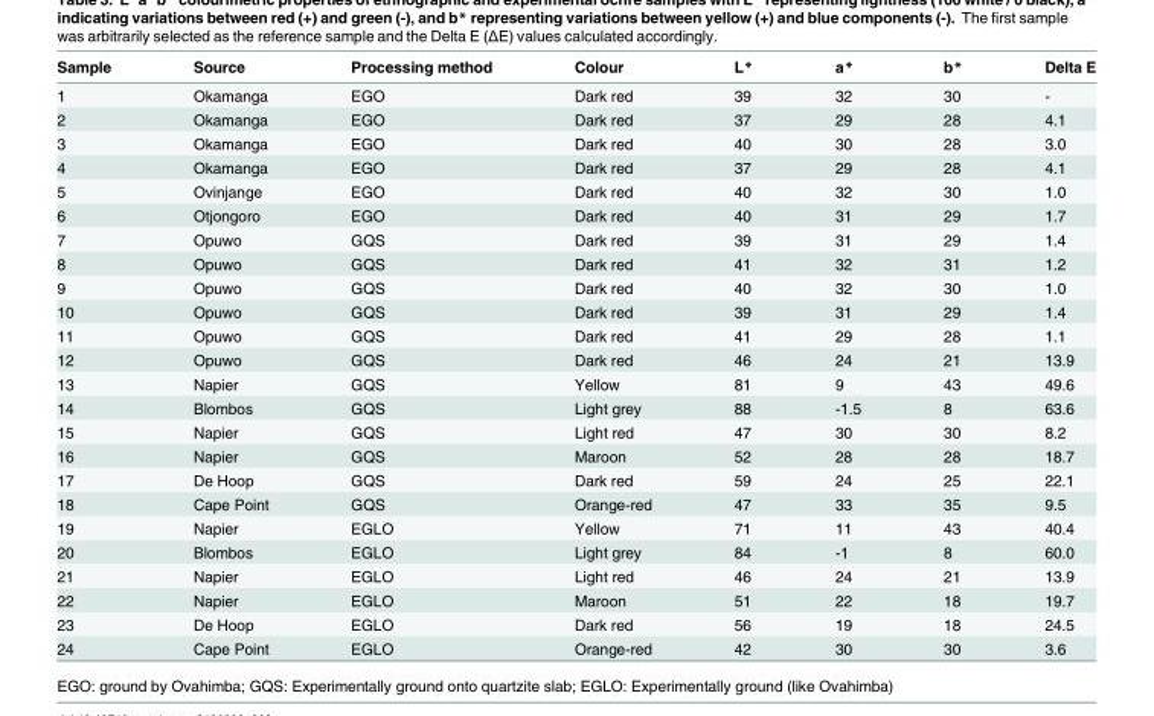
<table><thead><tr><td>Sample</td><td>Source</td><td>Processing method</td><td>Colour</td><td>L*</td><td>a*</td><td>b*</td><td>Delta E</td></tr></thead><tbody><tr><td>1</td><td>Okamanga</td><td>EGO</td><td>Dark red</td><td>39</td><td>32</td><td>30</td><td>-</td></tr><tr><td>2</td><td>Okamanga</td><td>EGO</td><td>Dark red</td><td>37</td><td>29</td><td>28</td><td>4.1</td></tr><tr><td>3</td><td>Okamanga</td><td>EGO</td><td>Dark red</td><td>40</td><td>30</td><td>28</td><td>3.0</td></tr><tr><td>4</td><td>Okamanga</td><td>EGO</td><td>Dark red</td><td>37</td><td>29</td><td>28</td><td>4.1</td></tr><tr><td>5</td><td>Ovinjange</td><td>EGO</td><td>Dark red</td><td>40</td><td>32</td><td>30</td><td>1.0</td></tr><tr><td>6</td><td>Otjongoro</td><td>EGO</td><td>Dark red</td><td>40</td><td>31</td><td>29</td><td>1.7</td></tr><tr><td>7</td><td>Opuwo</td><td>GQS</td><td>Dark red</td><td>39</td><td>31</td><td>29</td><td>1.4</td></tr><tr><td>8</td><td>Opuwo</td><td>GQS</td><td>Dark red</td><td>41</td><td>32</td><td>31</td><td>1.2</td></tr><tr><td>9</td><td>Opuwo</td><td>GQS</td><td>Dark red</td><td>40</td><td>32</td><td>30</td><td>1.0</td></tr><tr><td>10</td><td>Opuwo</td><td>GQS</td><td>Dark red</td><td>39</td><td>31</td><td>29</td><td>1.4</td></tr><tr><td>11</td><td>Opuwo</td><td>GQS</td><td>Dark red</td><td>41</td><td>29</td><td>28</td><td>1.1</td></tr><tr><td>12</td><td>Opuwo</td><td>GQS</td><td>Dark red</td><td>46</td><td>24</td><td>21</td><td>13.9</td></tr><tr><td>13</td><td>Napier</td><td>GQS</td><td>Yellow</td><td>81</td><td>9</td><td>43</td><td>49.6</td></tr><tr><td>14</td><td>Blombos</td><td>GQS</td><td>Light grey</td><td>88</td><td>-1.5</td><td>8</td><td>63.6</td></tr><tr><td>15</td><td>Napier</td><td>GQS</td><td>Light red</td><td>47</td><td>30</td><td>30</td><td>8.2</td></tr><tr><td>16</td><td>Napier</td><td>GQS</td><td>Maroon</td><td>52</td><td>28</td><td>28</td><td>18.7</td></tr><tr><td>17</td><td>De Hoop</td><td>GQS</td><td>Dark red</td><td>59</td><td>24</td><td>25</td><td>22.1</td></tr><tr><td>18</td><td>Cape Point</td><td>GQS</td><td>Orange-red</td><td>47</td><td>33</td><td>35</td><td>9.5</td></tr><tr><td>19</td><td>Napier</td><td>EGLO</td><td>Yellow</td><td>71</td><td>11</td><td>43</td><td>40.4</td></tr><tr><td>20</td><td>Blombos</td><td>EGLO</td><td>Light grey</td><td>84</td><td>-1</td><td>8</td><td>60.0</td></tr><tr><td>21</td><td>Napier</td><td>EGLO</td><td>Light red</td><td>46</td><td>24</td><td>21</td><td>13.9</td></tr><tr><td>22</td><td>Napier</td><td>EGLO</td><td>Maroon</td><td>51</td><td>22</td><td>18</td><td>19.7</td></tr><tr><td>23</td><td>De Hoop</td><td>EGLO</td><td>Dark red</td><td>56</td><td>19</td><td>18</td><td>24.5</td></tr><tr><td>24</td><td>Cape Point</td><td>EGLO</td><td>Orange-red</td><td>42</td><td>30</td><td>30</td><td>3.6</td></tr></tbody></table>